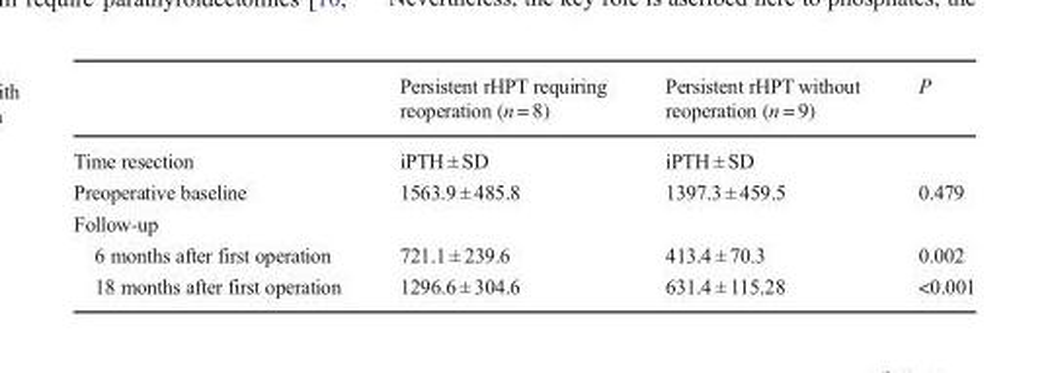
<table><thead><tr><td></td><td>Persistent rHPT requiring reoperation (n = 8)</td><td>Persistent rHPT without reoperation (n = 9)</td><td>P</td></tr></thead><tbody><tr><td>Time resection</td><td>iPTH ± SD</td><td>iPTH ± SD</td><td></td></tr><tr><td>Preoperative baseline</td><td>1563.9 ± 485.8</td><td>1397.3 ± 459.5</td><td>0.479</td></tr><tr><td colspan="4">Follow-up</td></tr><tr><td>6 months after first operation</td><td>721.1 ± 239.6</td><td>413.4 ± 70.3</td><td>0.002</td></tr><tr><td>18 months after first operation</td><td>1296.6 ± 304.6</td><td>631.4 ± 115.28</td><td>&lt;0.001</td></tr></tbody></table>